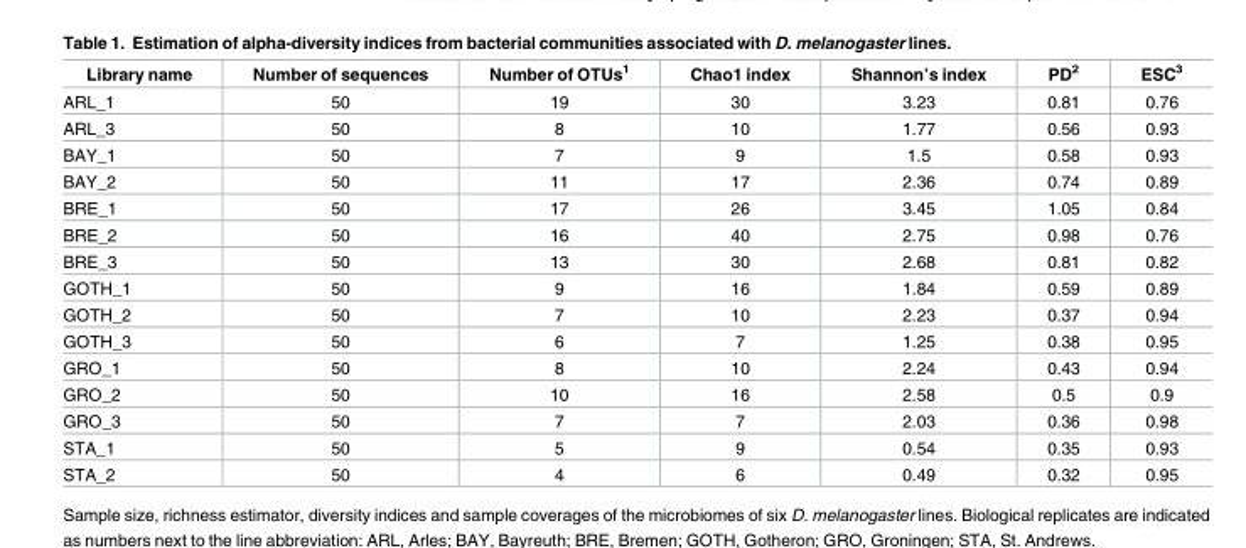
<table><thead><tr><td>Library name</td><td>Number of sequences</td><td>Number of OTUs<sup>1</sup></td><td>Chao1 index</td><td>Shannon’s index</td><td>PD<sup>2</sup></td><td>ESC<sup>3</sup></td></tr></thead><tbody><tr><td>ARL_1</td><td>50</td><td>19</td><td>30</td><td>3.23</td><td>0.81</td><td>0.76</td></tr><tr><td>ARL_3</td><td>50</td><td>8</td><td>10</td><td>1.77</td><td>0.56</td><td>0.93</td></tr><tr><td>BAY_1</td><td>50</td><td>7</td><td>9</td><td>1.5</td><td>0.58</td><td>0.93</td></tr><tr><td>BAY_2</td><td>50</td><td>11</td><td>17</td><td>2.36</td><td>0.74</td><td>0.89</td></tr><tr><td>BRE_1</td><td>50</td><td>17</td><td>26</td><td>3.45</td><td>1.05</td><td>0.84</td></tr><tr><td>BRE_2</td><td>50</td><td>16</td><td>40</td><td>2.75</td><td>0.98</td><td>0.76</td></tr><tr><td>BRE_3</td><td>50</td><td>13</td><td>30</td><td>2.68</td><td>0.81</td><td>0.82</td></tr><tr><td>GOTH_1</td><td>50</td><td>9</td><td>16</td><td>1.84</td><td>0.59</td><td>0.89</td></tr><tr><td>GOTH_2</td><td>50</td><td>7</td><td>10</td><td>2.23</td><td>0.37</td><td>0.94</td></tr><tr><td>GOTH_3</td><td>50</td><td>6</td><td>7</td><td>1.25</td><td>0.38</td><td>0.95</td></tr><tr><td>GRO_1</td><td>50</td><td>8</td><td>10</td><td>2.24</td><td>0.43</td><td>0.94</td></tr><tr><td>GRO_2</td><td>50</td><td>10</td><td>16</td><td>2.58</td><td>0.5</td><td>0.9</td></tr><tr><td>GRO_3</td><td>50</td><td>7</td><td>7</td><td>2.03</td><td>0.36</td><td>0.98</td></tr><tr><td>STA_1</td><td>50</td><td>5</td><td>9</td><td>0.54</td><td>0.35</td><td>0.93</td></tr><tr><td>STA_2</td><td>50</td><td>4</td><td>6</td><td>0.49</td><td>0.32</td><td>0.95</td></tr></tbody></table>